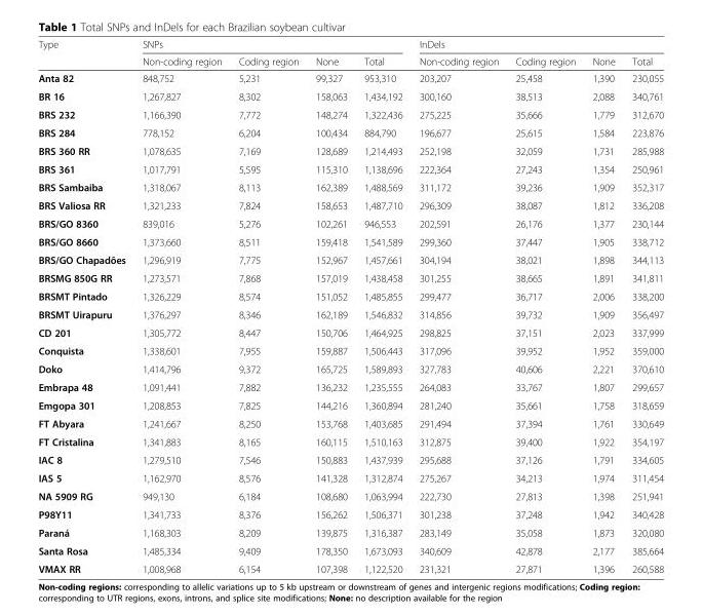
<table><thead><tr><td rowspan="2">Type</td><td colspan="4">SNPs</td><td colspan="4">InDels</td></tr><tr><td>Non-coding region</td><td>Coding region</td><td>None</td><td>Total</td><td>Non-coding region</td><td>Coding region</td><td>None</td><td>Total</td></tr></thead><tbody><tr><td>Anta 82</td><td>848,752</td><td>5,231</td><td>99,327</td><td>953,310</td><td>203,207</td><td>25,458</td><td>1,390</td><td>230,055</td></tr><tr><td>BR 16</td><td>1,267,827</td><td>8,302</td><td>158,063</td><td>1,434,192</td><td>300,160</td><td>38,513</td><td>2,088</td><td>340,761</td></tr><tr><td>BRS 232</td><td>1,166,390</td><td>7,772</td><td>148,274</td><td>1,322,436</td><td>275,225</td><td>35,666</td><td>1,779</td><td>312,670</td></tr><tr><td>BRS 284</td><td>778,152</td><td>6,204</td><td>100,434</td><td>884,790</td><td>196,677</td><td>25,615</td><td>1,584</td><td>223,876</td></tr><tr><td>BRS 360 RR</td><td>1,078,635</td><td>7,169</td><td>128,689</td><td>1,214,493</td><td>252,198</td><td>32,059</td><td>1,731</td><td>285,988</td></tr><tr><td>BRS 361</td><td>1,017,791</td><td>5,595</td><td>115,310</td><td>1,138,696</td><td>222,364</td><td>27,243</td><td>1,354</td><td>250,961</td></tr><tr><td>BRS Sambaiba</td><td>1,318,067</td><td>8,113</td><td>162,389</td><td>1,488,569</td><td>311,172</td><td>39,236</td><td>1,909</td><td>352,317</td></tr><tr><td>BRS Valiosa RR</td><td>1,321,233</td><td>7,824</td><td>158,653</td><td>1,487,710</td><td>296,309</td><td>38,087</td><td>1,812</td><td>336,208</td></tr><tr><td>BRS/GO 8360</td><td>839,016</td><td>5,276</td><td>102,261</td><td>946,553</td><td>202,591</td><td>26,176</td><td>1,377</td><td>230,144</td></tr><tr><td>BRS/GO 8660</td><td>1,373,660</td><td>8,511</td><td>159,418</td><td>1,541,589</td><td>299,360</td><td>37,447</td><td>1,905</td><td>338,712</td></tr><tr><td>BRS/GO Chapadões</td><td>1,296,919</td><td>7,775</td><td>152,967</td><td>1,457,661</td><td>304,194</td><td>38,021</td><td>1,898</td><td>344,113</td></tr><tr><td>BRSMG 850G RR</td><td>1,273,571</td><td>7,868</td><td>157,019</td><td>1,438,458</td><td>301,255</td><td>38,665</td><td>1,891</td><td>341,811</td></tr><tr><td>BRSMT Pintado</td><td>1,326,229</td><td>8,574</td><td>151,052</td><td>1,485,855</td><td>299,477</td><td>36,717</td><td>2,006</td><td>338,200</td></tr><tr><td>BRSMT Uirapuru</td><td>1,376,297</td><td>8,346</td><td>162,189</td><td>1,546,832</td><td>314,856</td><td>39,732</td><td>1,909</td><td>356,497</td></tr><tr><td>CD 201</td><td>1,305,772</td><td>8,447</td><td>150,706</td><td>1,464,925</td><td>298,825</td><td>37,151</td><td>2,023</td><td>337,999</td></tr><tr><td>Conquista</td><td>1,338,601</td><td>7,955</td><td>159,887</td><td>1,506,443</td><td>317,096</td><td>39,952</td><td>1,952</td><td>359,000</td></tr><tr><td>Doko</td><td>1,414,796</td><td>9,372</td><td>165,725</td><td>1,589,893</td><td>327,783</td><td>40,606</td><td>2,221</td><td>370,610</td></tr><tr><td>Embrapa 48</td><td>1,091,441</td><td>7,882</td><td>136,232</td><td>1,235,555</td><td>264,083</td><td>33,767</td><td>1,807</td><td>299,657</td></tr><tr><td>Emgopa 301</td><td>1,208,853</td><td>7,825</td><td>144,216</td><td>1,360,894</td><td>281,240</td><td>35,661</td><td>1,758</td><td>318,659</td></tr><tr><td>FT Abyara</td><td>1,241,667</td><td>8,250</td><td>153,768</td><td>1,403,685</td><td>291,494</td><td>37,394</td><td>1,761</td><td>330,649</td></tr><tr><td>FT Cristalina</td><td>1,341,883</td><td>8,165</td><td>160,115</td><td>1,510,163</td><td>312,875</td><td>39,400</td><td>1,922</td><td>354,197</td></tr><tr><td>IAC 8</td><td>1,279,510</td><td>7,546</td><td>150,883</td><td>1,437,939</td><td>295,688</td><td>37,126</td><td>1,791</td><td>334,605</td></tr><tr><td>IAS 5</td><td>1,162,970</td><td>8,576</td><td>141,328</td><td>1,312,874</td><td>275,267</td><td>34,213</td><td>1,974</td><td>311,454</td></tr><tr><td>NA 5909 RG</td><td>949,130</td><td>6,184</td><td>108,680</td><td>1,063,994</td><td>222,730</td><td>27,813</td><td>1,398</td><td>251,941</td></tr><tr><td>P98Y11</td><td>1,341,733</td><td>8,376</td><td>156,262</td><td>1,506,371</td><td>301,238</td><td>37,248</td><td>1,942</td><td>340,428</td></tr><tr><td>Paraná</td><td>1,168,303</td><td>8,209</td><td>139,875</td><td>1,316,387</td><td>283,149</td><td>35,058</td><td>1,873</td><td>320,080</td></tr><tr><td>Santa Rosa</td><td>1,485,334</td><td>9,409</td><td>178,350</td><td>1,673,093</td><td>340,609</td><td>42,878</td><td>2,177</td><td>385,664</td></tr><tr><td>VMAX RR</td><td>1,008,968</td><td>6,154</td><td>107,398</td><td>1,122,520</td><td>231,321</td><td>27,871</td><td>1,396</td><td>260,588</td></tr></tbody></table>